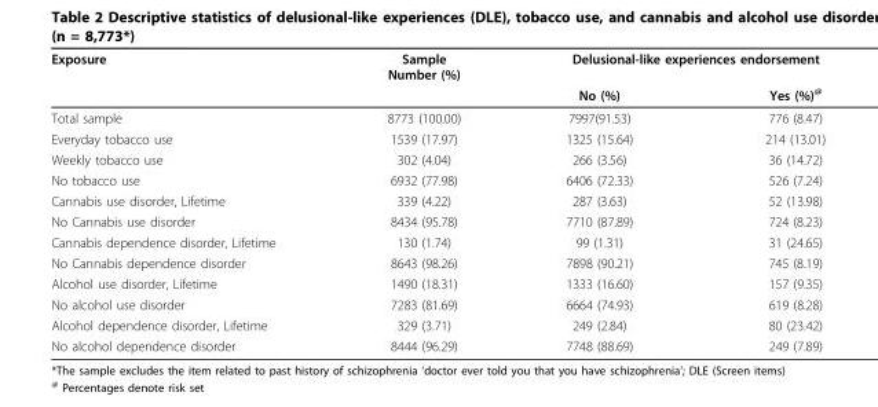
<table><thead><tr><td rowspan="2">Exposure</td><td rowspan="2">Sample Number (%)</td><td colspan="2">Delusional-like experiences endorsement</td></tr><tr><td>No (%)</td><td>Yes (%)<sup>@</sup></td></tr></thead><tbody><tr><td>Total sample</td><td>8773 (100.00)</td><td>7997(91.53)</td><td>776 (8.47)</td></tr><tr><td>Everyday tobacco use</td><td>1539 (17.97)</td><td>1325 (15.64)</td><td>214 (13.01)</td></tr><tr><td>Weekly tobacco use</td><td>302 (4.04)</td><td>266 (3.56)</td><td>36 (14.72)</td></tr><tr><td>No tobacco use</td><td>6932 (77.98)</td><td>6406 (72.33)</td><td>526 (7.24)</td></tr><tr><td>Cannabis use disorder, Lifetime</td><td>339 (4.22)</td><td>287 (3.63)</td><td>52 (13.98)</td></tr><tr><td>No Cannabis use disorder</td><td>8434 (95.78)</td><td>7710 (87.89)</td><td>724 (8.23)</td></tr><tr><td>Cannabis dependence disorder, Lifetime</td><td>130 (1.74)</td><td>99 (1.31)</td><td>31 (24.65)</td></tr><tr><td>No Cannabis dependence disorder</td><td>8643 (98.26)</td><td>7898 (90.21)</td><td>745 (8.19)</td></tr><tr><td>Alcohol use disorder, Lifetime</td><td>1490 (18.31)</td><td>1333 (16.60)</td><td>157 (9.35)</td></tr><tr><td>No alcohol use disorder</td><td>7283 (81.69)</td><td>6664 (74.93)</td><td>619 (8.28)</td></tr><tr><td>Alcohol dependence disorder, Lifetime</td><td>329 (3.71)</td><td>249 (2.84)</td><td>80 (23.42)</td></tr><tr><td>No alcohol dependence disorder</td><td>8444 (96.29)</td><td>7748 (88.69)</td><td>249 (7.89)</td></tr></tbody></table>